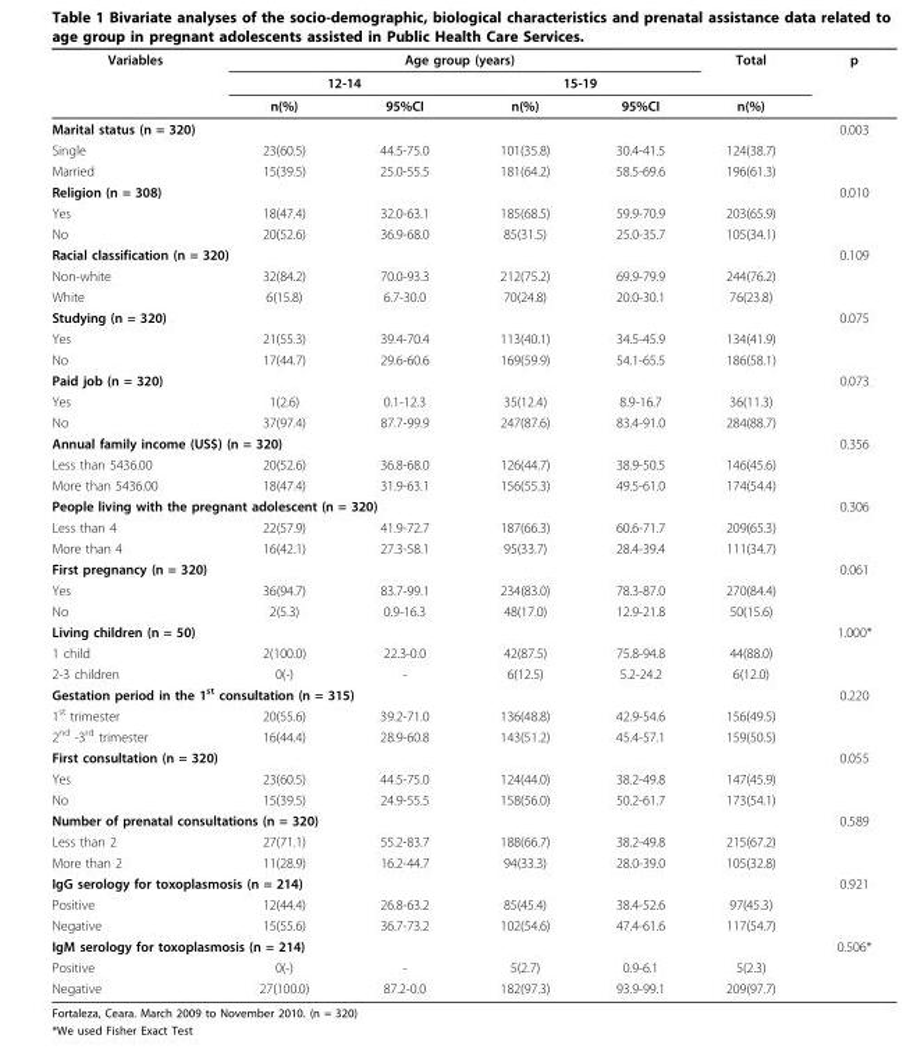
<table><thead><tr><td rowspan="3">Variables</td><td colspan="4">Age group (years)</td><td rowspan="3">Total n(%)</td><td rowspan="3">p</td></tr><tr><td colspan="2">12-14</td><td colspan="2">15-19</td></tr><tr><td>n(%)</td><td>95%CI</td><td>n(%)</td><td>95%CI</td></tr></thead><tbody><tr><td colspan="2">Marital status (n = 320)</td><td></td><td></td><td></td><td></td><td>0.003</td></tr><tr><td>Single</td><td>23(60.5)</td><td>44.5-75.0</td><td>101(35.8)</td><td>30.4-41.5</td><td>124(38.7)</td><td></td></tr><tr><td>Married</td><td>15(39.5)</td><td>25.0-55.5</td><td>181(64.2)</td><td>58.5-69.6</td><td>196(61.3)</td><td></td></tr><tr><td colspan="2">Religion (n = 308)</td><td></td><td></td><td></td><td></td><td>0.010</td></tr><tr><td>Yes</td><td>18(47.4)</td><td>32.0-63.1</td><td>185(68.5)</td><td>59.9-70.9</td><td>203(65.9)</td><td></td></tr><tr><td>No</td><td>20(52.6)</td><td>36.9-68.0</td><td>85(31.5)</td><td>25.0-35.7</td><td>105(34.1)</td><td></td></tr><tr><td colspan="3">Racial classification (n = 320)</td><td></td><td></td><td></td><td>0.109</td></tr><tr><td>Non-white</td><td>32(84.2)</td><td>70.0-93.3</td><td>212(75.2)</td><td>69.9-79.9</td><td>244(76.2)</td><td></td></tr><tr><td>White</td><td>6(15.8)</td><td>6.7-30.0</td><td>70(24.8)</td><td>20.0-30.1</td><td>76(23.8)</td><td></td></tr><tr><td colspan="2">Studying (n = 320)</td><td></td><td></td><td></td><td></td><td>0.075</td></tr><tr><td>Yes</td><td>21(55.3)</td><td>39.4-70.4</td><td>113(40.1)</td><td>34.5-45.9</td><td>134(41.9)</td><td></td></tr><tr><td>No</td><td>17(44.7)</td><td>29.6-60.6</td><td>169(59.9)</td><td>54.1-65.5</td><td>186(58.1)</td><td></td></tr><tr><td colspan="2">Paid job (n = 320)</td><td></td><td></td><td></td><td></td><td>0.073</td></tr><tr><td>Yes</td><td>1(2.6)</td><td>0.1-12.3</td><td>35(12.4)</td><td>8.9-16.7</td><td>36(11.3)</td><td></td></tr><tr><td>No</td><td>37(97.4)</td><td>87.7-99.9</td><td>247(87.6)</td><td>83.4-91.0</td><td>284(88.7)</td><td></td></tr><tr><td colspan="3">Annual family income (US$) (n = 320)</td><td></td><td></td><td></td><td>0.356</td></tr><tr><td>Less than 5436.00</td><td>20(52.6)</td><td>36.8-68.0</td><td>126(44.7)</td><td>38.9-50.5</td><td>146(45.6)</td><td></td></tr><tr><td>More than 5436.00</td><td>18(47.4)</td><td>31.9-63.1</td><td>156(55.3)</td><td>49.5-61.0</td><td>174(54.4)</td><td></td></tr><tr><td colspan="4">People living with the pregnant adolescent (n = 320)</td><td></td><td></td><td>0.306</td></tr><tr><td>Less than 4</td><td>22(57.9)</td><td>41.9-72.7</td><td>187(66.3)</td><td>60.6-71.7</td><td>209(65.3)</td><td></td></tr><tr><td>More than 4</td><td>16(42.1)</td><td>27.3-58.1</td><td>95(33.7)</td><td>28.4-39.4</td><td>111(34.7)</td><td></td></tr><tr><td colspan="2">First pregnancy (n = 320)</td><td></td><td></td><td></td><td></td><td>0.061</td></tr><tr><td>Yes</td><td>36(94.7)</td><td>83.7-99.1</td><td>234(83.0)</td><td>78.3-87.0</td><td>270(84.4)</td><td></td></tr><tr><td>No</td><td>2(5.3)</td><td>0.9-16.3</td><td>48(17.0)</td><td>12.9-21.8</td><td>50(15.6)</td><td></td></tr><tr><td colspan="2">Living children (n = 50)</td><td></td><td></td><td></td><td></td><td>1.000*</td></tr><tr><td>1 child</td><td>2(100.0)</td><td>22.3-0.0</td><td>42(87.5)</td><td>75.8-94.8</td><td>44(88.0)</td><td></td></tr><tr><td>2-3 children</td><td>0(-)</td><td>-</td><td>6(12.5)</td><td>5.2-24.2</td><td>6(12.0)</td><td></td></tr><tr><td colspan="4">Gestation period in the 1<sup>st</sup> consultation (n = 315)</td><td></td><td></td><td>0.220</td></tr><tr><td>1<sup>st</sup> trimester</td><td>20(55.6)</td><td>39.2-71.0</td><td>136(48.8)</td><td>42.9-54.6</td><td>156(49.5)</td><td></td></tr><tr><td>2<sup>nd</sup> -3<sup>rd</sup> trimester</td><td>16(44.4)</td><td>28.9-60.8</td><td>143(51.2)</td><td>45.4-57.1</td><td>159(50.5)</td><td></td></tr><tr><td colspan="2">First consultation (n = 320)</td><td></td><td></td><td></td><td></td><td>0.055</td></tr><tr><td>Yes</td><td>23(60.5)</td><td>44.5-75.0</td><td>124(44.0)</td><td>38.2-49.8</td><td>147(45.9)</td><td></td></tr><tr><td>No</td><td>15(39.5)</td><td>24.9-55.5</td><td>158(56.0)</td><td>50.2-61.7</td><td>173(54.1)</td><td></td></tr><tr><td colspan="4">Number of prenatal consultations (n = 320)</td><td></td><td></td><td>0.589</td></tr><tr><td>Less than 2</td><td>27(71.1)</td><td>55.2-83.7</td><td>188(66.7)</td><td>38.2-49.8</td><td>215(67.2)</td><td></td></tr><tr><td>More than 2</td><td>11(28.9)</td><td>16.2-44.7</td><td>94(33.3)</td><td>28.0-39.0</td><td>105(32.8)</td><td></td></tr><tr><td colspan="3">IgG serology for toxoplasmosis (n = 214)</td><td></td><td></td><td></td><td>0.921</td></tr><tr><td>Positive</td><td>12(44.4)</td><td>26.8-63.2</td><td>85(45.4)</td><td>38.4-52.6</td><td>97(45.3)</td><td></td></tr><tr><td>Negative</td><td>15(55.6)</td><td>36.7-73.2</td><td>102(54.6)</td><td>47.4-61.6</td><td>117(54.7)</td><td></td></tr><tr><td colspan="4">IgM serology for toxoplasmosis (n = 214)</td><td></td><td></td><td>0.506*</td></tr><tr><td>Positive</td><td>0(-)</td><td>-</td><td>5(2.7)</td><td>0.9-6.1</td><td>5(2.3)</td><td></td></tr><tr><td>Negative</td><td>27(100.0)</td><td>87.2-0.0</td><td>182(97.3)</td><td>93.9-99.1</td><td>209(97.7)</td><td></td></tr></tbody></table>